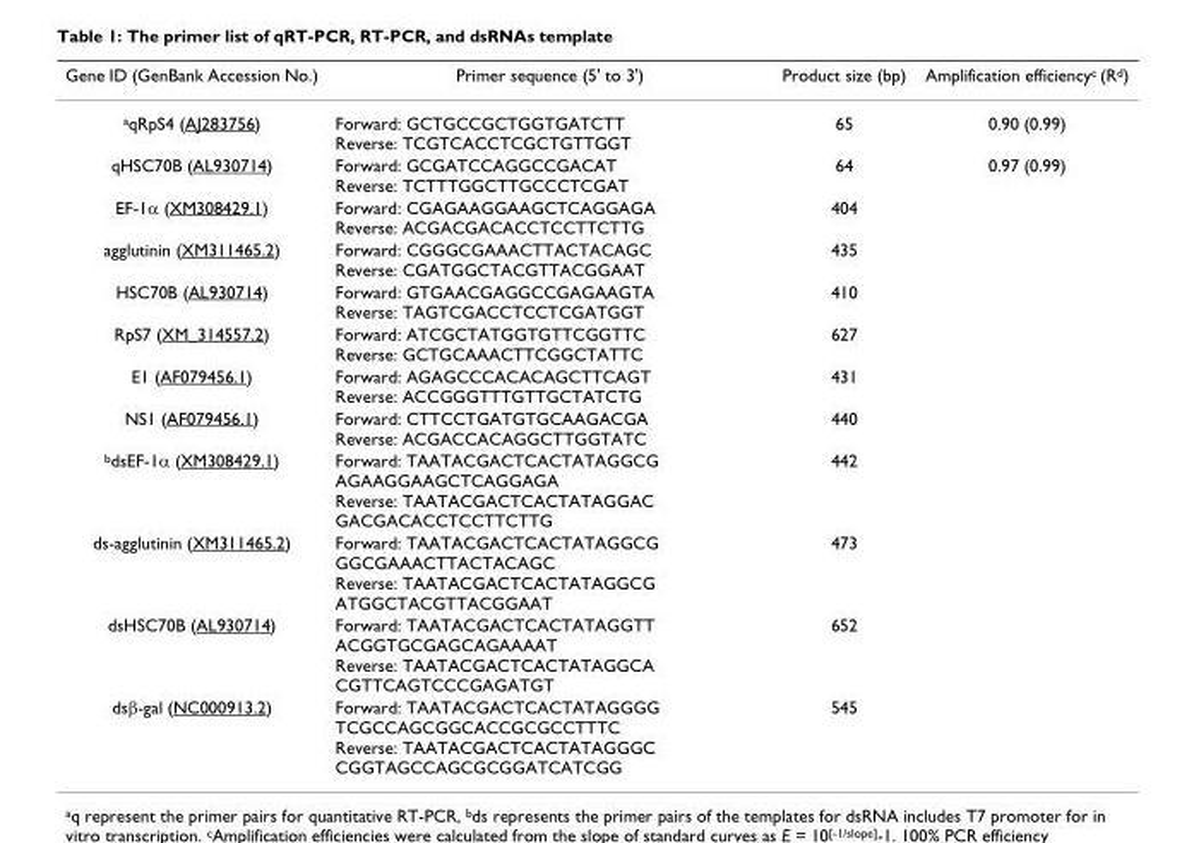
<table><thead><tr><td>Gene ID (GenBank Accession No.)</td><td>Primer sequence (5&#x27; to 3&#x27;)</td><td>Product size (bp)</td><td>Amplification efficiency<sup>c</sup> (R<sup>d</sup>)</td></tr></thead><tbody><tr><td><sup>a</sup>qRpS4 (AJ283756)</td><td>Forward: GCTGCCGCTGGTGATCTT Reverse: TCGTCACCTCGCTGTTGGT</td><td>65</td><td>0.90 (0.99)</td></tr><tr><td>qHSC70B (AL930714)</td><td>Forward: GCGATCCAGGCCGACAT Reverse: TCTTTGGCTTGCCCTCGAT</td><td>64</td><td>0.97 (0.99)</td></tr><tr><td>EF-1α (XM308429.1)</td><td>Forward: CGAGAAGGAAGCTCAGGAGA Reverse: ACGACGACACCTCCTTCTTG</td><td>404</td><td></td></tr><tr><td>agglutinin (XM311465.2)</td><td>Forward: CGGGCGAAACTTACTACAGC Reverse: CGATGGCTACGTTACGGAAT</td><td>435</td><td></td></tr><tr><td>HSC70B (AL930714)</td><td>Forward: GTGAACGAGGCCGAGAAGTA Reverse: TAGTCGACCTCCTCGATGGT</td><td>410</td><td></td></tr><tr><td>RpS7 (XM_314557.2)</td><td>Forward: ATCGCTATGGTGTTCGGTTC Reverse: GCTGCAAACTTCGGCTATTC</td><td>627</td><td></td></tr><tr><td>E1 (AF079456.1)</td><td>Forward: AGAGCCCACACAGCTTCAGT Reverse: ACCGGGTTTGTTGCTATCTG</td><td>431</td><td></td></tr><tr><td>NS1 (AF079456.1)</td><td>Forward: CTTCCTGATGTGCAAGACGA Reverse: ACGACCACAGGCTTGGTATC</td><td>440</td><td></td></tr><tr><td><sup>b</sup>dsEF-1α (XM308429.1)</td><td>Forward: TAATACGACTCACTATAGGCG AGAAGGAAGCTCAGGAGA Reverse: TAATACGACTCACTATAGGAC GACGACACCTCCTTCTTG</td><td>442</td><td></td></tr><tr><td>ds-agglutinin (XM311465.2)</td><td>Forward: TAATACGACTCACTATAGGCG GGCGAAACTTACTACAGC Reverse: TAATACGACTCACTATAGGCG ATGGCTACGTTACGGAAT</td><td>473</td><td></td></tr><tr><td>dsHSC70B (AL930714)</td><td>Forward: TAATACGACTCACTATAGGTT ACGGTGCGAGCAGAAAAT Reverse: TAATACGACTCACTATAGGCA CGTTCAGTCCCGAGATGT</td><td>652</td><td></td></tr><tr><td>dsβ-gal (NC000913.2)</td><td>Forward: TAATACGACTCACTATAGGGG TCGCCAGCGGCACCGCGCCTTTC Reverse: TAATACGACTCACTATAGGGC CGGTAGCCAGCGCGGATCATCGG</td><td>545</td><td></td></tr></tbody></table>